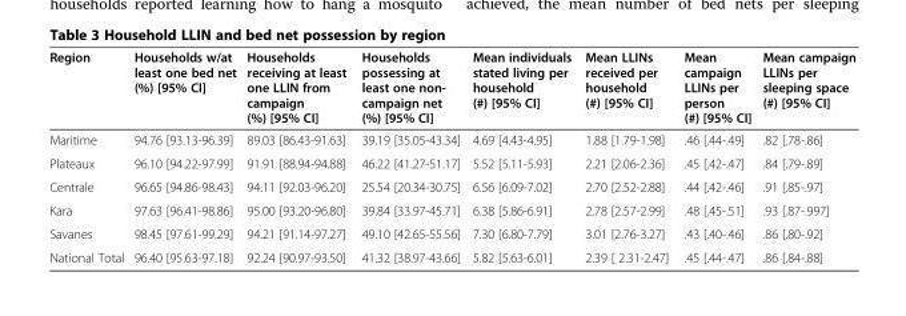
<table><thead><tr><td>Region</td><td>Households w/at least one bed net (%) [95% CI]</td><td>Households receiving at least one LLIN from campaign (%) [95% CI]</td><td>Households possessing at least one non- campaign net (%) [95% CI]</td><td>Mean individuals stated living per household (#) [95% CI]</td><td>Mean LLINs received per household (#) [95% CI]</td><td>Mean campaign LLINs per person (#) [95% CI]</td><td>Mean campaign LLINs per sleeping space (#) [95% CI]</td></tr></thead><tbody><tr><td>Maritime</td><td>94.76 [93.13-96.39]</td><td>89.03 [86.43-91.63]</td><td>39.19 [35.05-43.34]</td><td>4.69 [4.43-4.95]</td><td>1.88 [1.79-1.98]</td><td>.46 [.44-.49]</td><td>.82 [.78-.86]</td></tr><tr><td>Plateaux</td><td>96.10 [94.22-97.99]</td><td>91.91 [88.94-94.88]</td><td>46.22 [41.27-51.17]</td><td>5.52 [5.11-5.93]</td><td>2.21 [2.06-2.36]</td><td>.45 [.42-.47]</td><td>.84 [.79-.89]</td></tr><tr><td>Centrale</td><td>96.65 [94.86-98.43]</td><td>94.11 [92.03-96.20]</td><td>25.54 [20.34-30.75]</td><td>6.56 [6.09-7.02]</td><td>2.70 [2.52-2.88]</td><td>.44 [.42-.46]</td><td>.91 [.85-.97]</td></tr><tr><td>Kara</td><td>97.63 [96.41-98.86]</td><td>95.00 [93.20-96.80]</td><td>39.84 [33.97-45.71]</td><td>6.38 [5.86-6.91]</td><td>2.78 [2.57-2.99]</td><td>.48 [.45-.51]</td><td>.93 [.87-.997]</td></tr><tr><td>Savanes</td><td>98.45 [97.61-99.29]</td><td>94.21 [91.14-97.27]</td><td>49.10 [42.65-55.56]</td><td>7.30 [6.80-7.79]</td><td>3.01 [2.76-3.27]</td><td>.43 [.40-.46]</td><td>.86 [.80-.92]</td></tr><tr><td>National Total</td><td>96.40 [95.63-97.18]</td><td>92.24 [90.97-93.50]</td><td>41.32 [38.97-43.66]</td><td>5.82 [5.63-6.01]</td><td>2.39 [ 2.31-2.47]</td><td>.45 [.44-.47]</td><td>.86 [.84-.88]</td></tr></tbody></table>